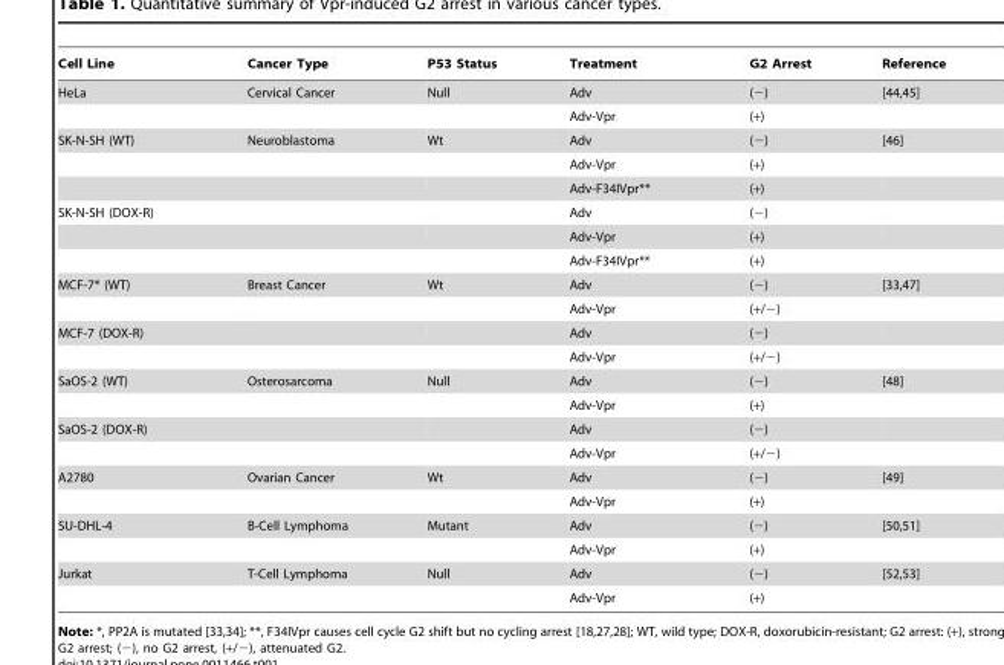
<table><thead><tr><td>Cell Line</td><td>Cancer Type</td><td>P53 Status</td><td>Treatment</td><td>G2 Arrest</td><td>Reference</td></tr></thead><tbody><tr><td rowspan="2">HeLa</td><td>Cervical Cancer</td><td>Null</td><td>Adv</td><td>(−)</td><td>[44,45]</td></tr><tr><td></td><td></td><td>Adv-Vpr</td><td>(+)</td><td></td></tr><tr><td rowspan="3">SK-N-SH (WT)</td><td>Neuroblastoma</td><td>Wt</td><td>Adv</td><td>(−)</td><td>[46]</td></tr><tr><td></td><td></td><td>Adv-Vpr</td><td>(+)</td><td></td></tr><tr><td></td><td></td><td>Adv-F34IVpr**</td><td>(+)</td><td></td></tr><tr><td rowspan="3">SK-N-SH (DOX-R)</td><td></td><td></td><td>Adv</td><td>(−)</td><td></td></tr><tr><td></td><td></td><td>Adv-Vpr</td><td>(+)</td><td></td></tr><tr><td></td><td></td><td>Adv-F34IVpr**</td><td>(+)</td><td></td></tr><tr><td rowspan="2">MCF-7* (WT)</td><td>Breast Cancer</td><td>Wt</td><td>Adv</td><td>(−)</td><td>[33,47]</td></tr><tr><td></td><td></td><td>Adv-Vpr</td><td>(+/−)</td><td></td></tr><tr><td rowspan="2">MCF-7 (DOX-R)</td><td></td><td></td><td>Adv</td><td>(−)</td><td></td></tr><tr><td></td><td></td><td>Adv-Vpr</td><td>(+/−)</td><td></td></tr><tr><td rowspan="2">SaOS-2 (WT)</td><td>Osterosarcoma</td><td>Null</td><td>Adv</td><td>(−)</td><td>[48]</td></tr><tr><td></td><td></td><td>Adv-Vpr</td><td>(+)</td><td></td></tr><tr><td rowspan="2">SaOS-2 (DOX-R)</td><td></td><td></td><td>Adv</td><td>(−)</td><td></td></tr><tr><td></td><td></td><td>Adv-Vpr</td><td>(+/−)</td><td></td></tr><tr><td rowspan="2">A2780</td><td>Ovarian Cancer</td><td>Wt</td><td>Adv</td><td>(−)</td><td>[49]</td></tr><tr><td></td><td></td><td>Adv-Vpr</td><td>(+)</td><td></td></tr><tr><td rowspan="2">SU-DHL-4</td><td>B-Cell Lymphoma</td><td>Mutant</td><td>Adv</td><td>(−)</td><td>[50,51]</td></tr><tr><td></td><td></td><td>Adv-Vpr</td><td>(+)</td><td></td></tr><tr><td rowspan="2">Jurkat</td><td>T-Cell Lymphoma</td><td>Null</td><td>Adv</td><td>(−)</td><td>[52,53]</td></tr><tr><td></td><td></td><td>Adv-Vpr</td><td>(+)</td><td></td></tr></tbody></table>